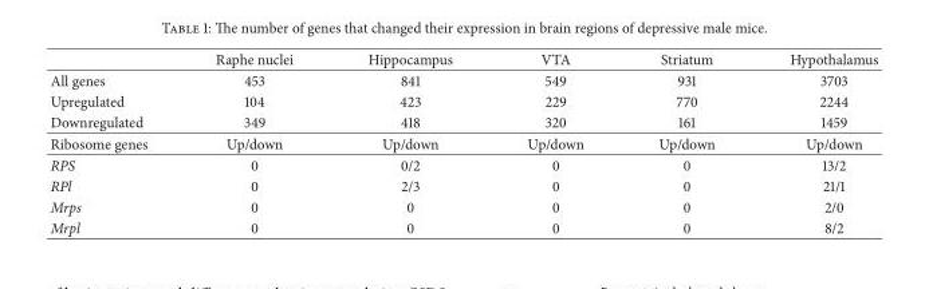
<table><thead><tr><td></td><td>Raphe nuclei</td><td>Hippocampus</td><td>VTA</td><td>Striatum</td><td>Hypothalamus</td></tr></thead><tbody><tr><td>All genes</td><td>453</td><td>841</td><td>549</td><td>931</td><td>3703</td></tr><tr><td>Upregulated</td><td>104</td><td>423</td><td>229</td><td>770</td><td>2244</td></tr><tr><td>Downregulated</td><td>349</td><td>418</td><td>320</td><td>161</td><td>1459</td></tr><tr><td>Ribosome genes</td><td>Up/down</td><td>Up/down</td><td>Up/down</td><td>Up/down</td><td>Up/down</td></tr><tr><td>RPS</td><td>0</td><td>0/2</td><td>0</td><td>0</td><td>13/2</td></tr><tr><td>RPl</td><td>0</td><td>2/3</td><td>0</td><td>0</td><td>21/1</td></tr><tr><td>Mrps</td><td>0</td><td>0</td><td>0</td><td>0</td><td>2/0</td></tr><tr><td>Mrpl</td><td>0</td><td>0</td><td>0</td><td>0</td><td>8/2</td></tr></tbody></table>